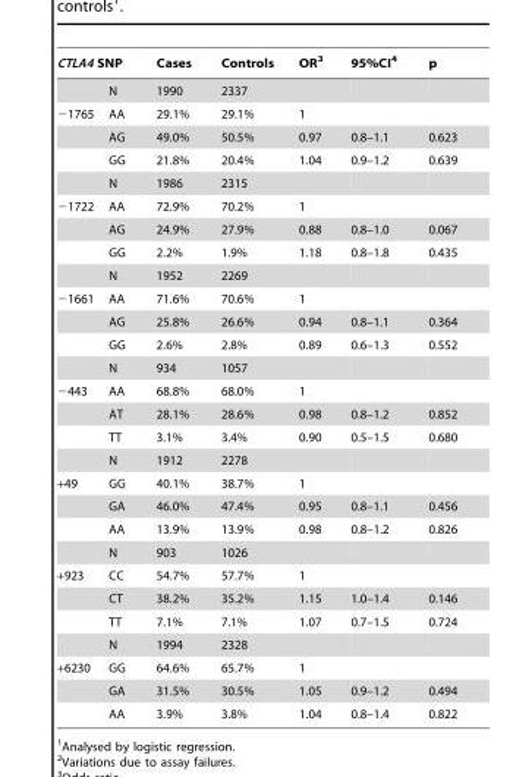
<table><thead><tr><td colspan="2">CTLA4 SNP</td><td rowspan="2">Cases 1990</td><td rowspan="2">Controls 2337</td><td rowspan="2">OR<sup>3</sup></td><td rowspan="2">95%CI<sup>4</sup></td><td rowspan="2">p</td></tr><tr><td></td><td>N</td></tr></thead><tbody><tr><td rowspan="4">−1765</td><td>AA</td><td>29.1%</td><td>29.1%</td><td>1</td><td></td><td></td></tr><tr><td>AG</td><td>49.0%</td><td>50.5%</td><td>0.97</td><td>0.8–1.1</td><td>0.623</td></tr><tr><td>GG</td><td>21.8%</td><td>20.4%</td><td>1.04</td><td>0.9–1.2</td><td>0.639</td></tr><tr><td>N</td><td>1986</td><td>2315</td><td></td><td></td><td></td></tr><tr><td rowspan="4">−1722</td><td>AA</td><td>72.9%</td><td>70.2%</td><td>1</td><td></td><td></td></tr><tr><td>AG</td><td>24.9%</td><td>27.9%</td><td>0.88</td><td>0.8–1.0</td><td>0.067</td></tr><tr><td>GG</td><td>2.2%</td><td>1.9%</td><td>1.18</td><td>0.8–1.8</td><td>0.435</td></tr><tr><td>N</td><td>1952</td><td>2269</td><td></td><td></td><td></td></tr><tr><td rowspan="4">−1661</td><td>AA</td><td>71.6%</td><td>70.6%</td><td>1</td><td></td><td></td></tr><tr><td>AG</td><td>25.8%</td><td>26.6%</td><td>0.94</td><td>0.8–1.1</td><td>0.364</td></tr><tr><td>GG</td><td>2.6%</td><td>2.8%</td><td>0.89</td><td>0.6–1.3</td><td>0.552</td></tr><tr><td>N</td><td>934</td><td>1057</td><td></td><td></td><td></td></tr><tr><td rowspan="4">−443</td><td>AA</td><td>68.8%</td><td>68.0%</td><td>1</td><td></td><td></td></tr><tr><td>AT</td><td>28.1%</td><td>28.6%</td><td>0.98</td><td>0.8–1.2</td><td>0.852</td></tr><tr><td>TT</td><td>3.1%</td><td>3.4%</td><td>0.90</td><td>0.5–1.5</td><td>0.680</td></tr><tr><td>N</td><td>1912</td><td>2278</td><td></td><td></td><td></td></tr><tr><td rowspan="4">+49</td><td>GG</td><td>40.1%</td><td>38.7%</td><td>1</td><td></td><td></td></tr><tr><td>GA</td><td>46.0%</td><td>47.4%</td><td>0.95</td><td>0.8–1.1</td><td>0.456</td></tr><tr><td>AA</td><td>13.9%</td><td>13.9%</td><td>0.98</td><td>0.8–1.2</td><td>0.826</td></tr><tr><td>N</td><td>903</td><td>1026</td><td></td><td></td><td></td></tr><tr><td rowspan="4">+923</td><td>CC</td><td>54.7%</td><td>57.7%</td><td>1</td><td></td><td></td></tr><tr><td>CT</td><td>38.2%</td><td>35.2%</td><td>1.15</td><td>1.0–1.4</td><td>0.146</td></tr><tr><td>TT</td><td>7.1%</td><td>7.1%</td><td>1.07</td><td>0.7–1.5</td><td>0.724</td></tr><tr><td>N</td><td>1994</td><td>2328</td><td></td><td></td><td></td></tr><tr><td rowspan="3">+6230</td><td>GG</td><td>64.6%</td><td>65.7%</td><td>1</td><td></td><td></td></tr><tr><td>GA</td><td>31.5%</td><td>30.5%</td><td>1.05</td><td>0.9–1.2</td><td>0.494</td></tr><tr><td>AA</td><td>3.9%</td><td>3.8%</td><td>1.04</td><td>0.8–1.4</td><td>0.822</td></tr></tbody></table>